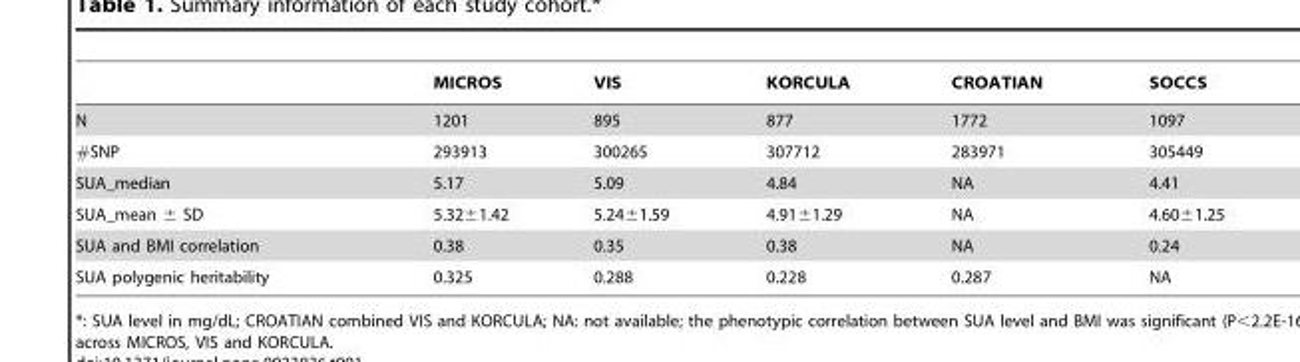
<table><thead><tr><td></td><td>MICROS</td><td>VIS</td><td>KORCULA</td><td>CROATIAN</td><td>SOCCS</td></tr></thead><tbody><tr><td>N</td><td>1201</td><td>895</td><td>877</td><td>1772</td><td>1097</td></tr><tr><td>#SNP</td><td>293913</td><td>300265</td><td>307712</td><td>283971</td><td>305449</td></tr><tr><td>SUA_median</td><td>5.17</td><td>5.09</td><td>4.84</td><td>NA</td><td>4.41</td></tr><tr><td>SUA_mean ± SD</td><td>5.32±1.42</td><td>5.24±1.59</td><td>4.91±1.29</td><td>NA</td><td>4.60±1.25</td></tr><tr><td>SUA and BMI correlation</td><td>0.38</td><td>0.35</td><td>0.38</td><td>NA</td><td>0.24</td></tr><tr><td>SUA polygenic heritability</td><td>0.325</td><td>0.288</td><td>0.228</td><td>0.287</td><td>NA</td></tr></tbody></table>